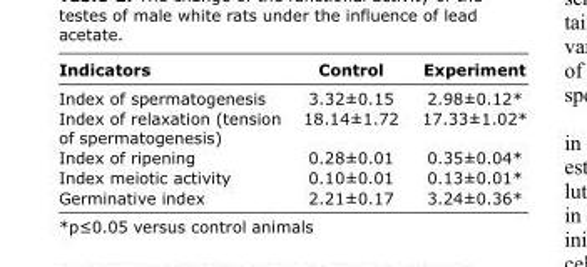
<table><thead><tr><td>Indicators</td><td>Control</td><td>Experiment</td></tr></thead><tbody><tr><td>Index of spermatogenesis</td><td>3.32±0.15</td><td>2.98±0.12*</td></tr><tr><td>Index of relaxation (tension of spermatogenesis)</td><td>18.14±1.72</td><td>17.33±1.02*</td></tr><tr><td>Index of ripening</td><td>0.28±0.01</td><td>0.35±0.04*</td></tr><tr><td>Index meiotic activity</td><td>0.10±0.01</td><td>0.13±0.01*</td></tr><tr><td>Germinative index</td><td>2.21±0.17</td><td>3.24±0.36*</td></tr></tbody></table>